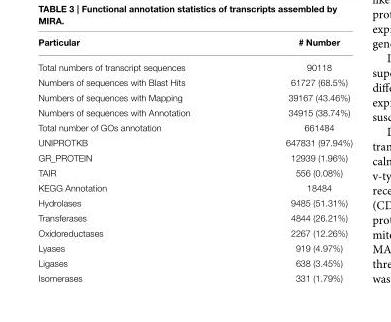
<table><thead><tr><td>Particular</td><td># Number</td></tr></thead><tbody><tr><td>Total numbers of transcript sequences</td><td>90118</td></tr><tr><td>Numbers of sequences with Blast Hits</td><td>61727 (68.5%)</td></tr><tr><td>Numbers of sequences with Mapping</td><td>39167 (43.46%)</td></tr><tr><td>Numbers of sequences with Annotation</td><td>34915 (38.74%)</td></tr><tr><td>Total number of GOs annotation</td><td>661484</td></tr><tr><td>UNIPROTKB</td><td>647831 (97.94%)</td></tr><tr><td>GR_PROTEIN</td><td>12939 (1.96%)</td></tr><tr><td>TAIR</td><td>556 (0.08%)</td></tr><tr><td>KEGG Annotation</td><td>18484</td></tr><tr><td>Hydrolases</td><td>9485 (51.31%)</td></tr><tr><td>Transferases</td><td>4844 (26.21%)</td></tr><tr><td>Oxidoreductases</td><td>2267 (12.26%)</td></tr><tr><td>Lyases</td><td>919 (4.97%)</td></tr><tr><td>Ligases</td><td>638 (3.45%)</td></tr><tr><td>Isomerases</td><td>331 (1.79%)</td></tr></tbody></table>